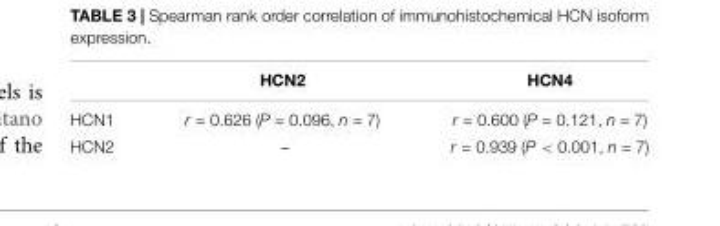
<table><thead><tr><td></td><td>HCN2</td><td>HCN4</td></tr></thead><tbody><tr><td>HCN1</td><td>r = 0.626 (P = 0.096, n = 7)</td><td>r = 0.600 (P = 0.121, n = 7)</td></tr><tr><td>HCN2</td><td>–</td><td>r = 0.939 (P &lt; 0.001, n = 7)</td></tr></tbody></table>